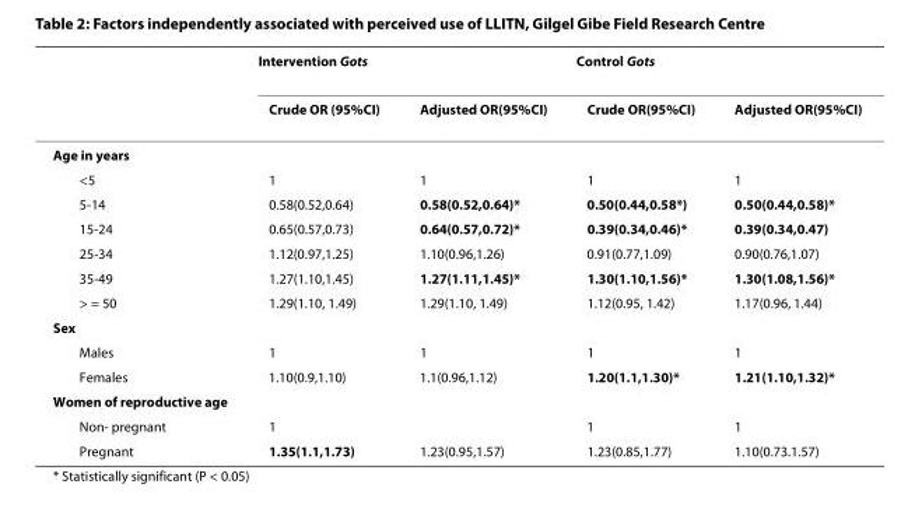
<table><thead><tr><td rowspan="2"></td><td colspan="2">Intervention Gots</td><td colspan="2">Control Gots</td></tr><tr><td>Crude OR (95%CI)</td><td>Adjusted OR(95%CI)</td><td>Crude OR(95%CI)</td><td>Adjusted OR(95%CI)</td></tr></thead><tbody><tr><td colspan="5">Age in years</td></tr><tr><td>&lt;5</td><td>1</td><td>1</td><td>1</td><td>1</td></tr><tr><td>5-14</td><td>0.58(0.52,0.64)</td><td>0.58(0.52,0.64)*</td><td>0.50(0.44,0.58*)</td><td>0.50(0.44,0.58)*</td></tr><tr><td>15-24</td><td>0.65(0.57,0.73)</td><td>0.64(0.57,0.72)*</td><td>0.39(0.34,0.46)*</td><td>0.39(0.34,0.47)</td></tr><tr><td>25-34</td><td>1.12(0.97,1.25)</td><td>1.10(0.96,1.26)</td><td>0.91(0.77,1.09)</td><td>0.90(0.76,1.07)</td></tr><tr><td>35-49</td><td>1.27(1.10,1.45)</td><td>1.27(1.11,1.45)*</td><td>1.30(1.10,1.56)*</td><td>1.30(1.08,1.56)*</td></tr><tr><td>&gt; = 50</td><td>1.29(1.10, 1.49)</td><td>1.29(1.10, 1.49)</td><td>1.12(0.95, 1.42)</td><td>1.17(0.96, 1.44)</td></tr><tr><td colspan="5">Sex</td></tr><tr><td>Males</td><td>1</td><td>1</td><td>1</td><td>1</td></tr><tr><td>Females</td><td>1.10(0.9,1.10)</td><td>1.1(0.96,1.12)</td><td>1.20(1.1,1.30)*</td><td>1.21(1.10,1.32)*</td></tr><tr><td colspan="5">Women of reproductive age</td></tr><tr><td>Non- pregnant</td><td>1</td><td></td><td>1</td><td>1</td></tr><tr><td>Pregnant</td><td>1.35(1.1,1.73)</td><td>1.23(0.95,1.57)</td><td>1.23(0.85,1.77)</td><td>1.10(0.73.1.57)</td></tr></tbody></table>